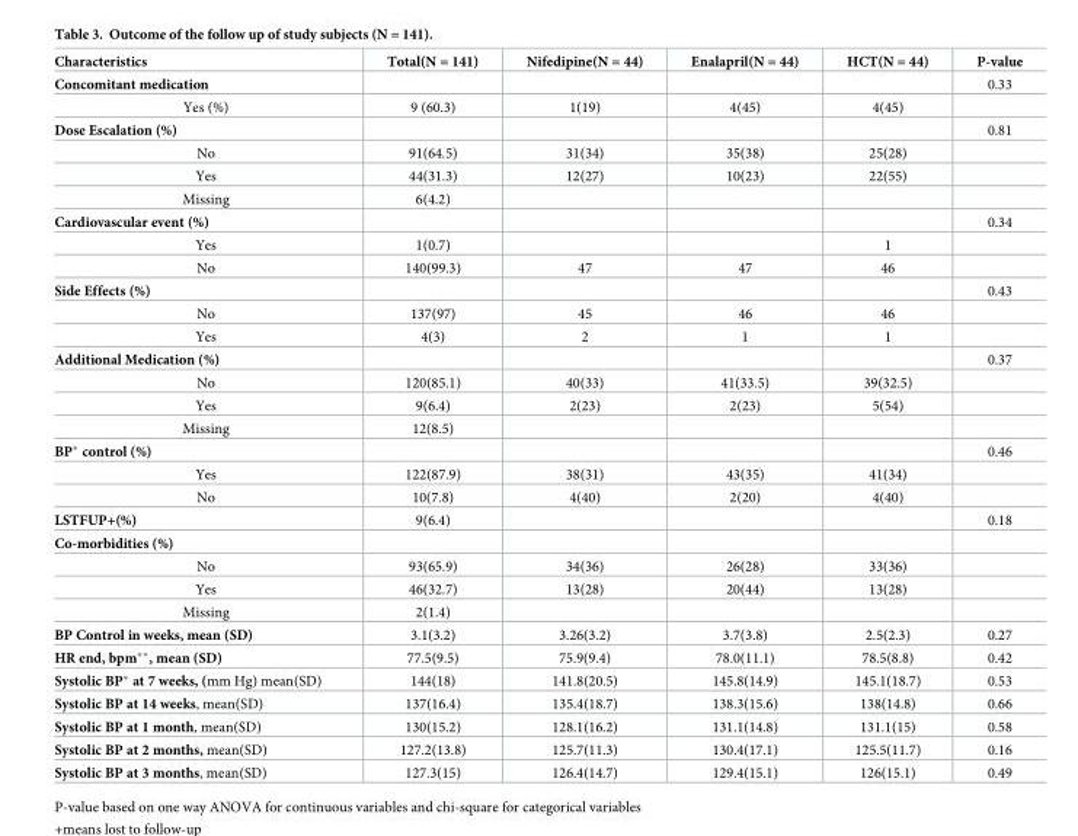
<table><thead><tr><td>Characteristics</td><td>Total(N = 141)</td><td>Nifedipine(N = 44)</td><td>Enalapril(N = 44)</td><td>HCT(N = 44)</td><td>P-value</td></tr></thead><tbody><tr><td>Concomitant medication</td><td></td><td></td><td></td><td></td><td>0.33</td></tr><tr><td>Yes (%)</td><td>9 (60.3)</td><td>1(19)</td><td>4(45)</td><td>4(45)</td><td></td></tr><tr><td>Dose Escalation (%)</td><td></td><td></td><td></td><td></td><td>0.81</td></tr><tr><td>No</td><td>91(64.5)</td><td>31(34)</td><td>35(38)</td><td>25(28)</td><td></td></tr><tr><td>Yes</td><td>44(31.3)</td><td>12(27)</td><td>10(23)</td><td>22(55)</td><td></td></tr><tr><td>Missing</td><td>6(4.2)</td><td></td><td></td><td></td><td></td></tr><tr><td>Cardiovascular event (%)</td><td></td><td></td><td></td><td></td><td>0.34</td></tr><tr><td>Yes</td><td>1(0.7)</td><td></td><td></td><td>1</td><td></td></tr><tr><td>No</td><td>140(99.3)</td><td>47</td><td>47</td><td>46</td><td></td></tr><tr><td>Side Effects (%)</td><td></td><td></td><td></td><td></td><td>0.43</td></tr><tr><td>No</td><td>137(97)</td><td>45</td><td>46</td><td>46</td><td></td></tr><tr><td>Yes</td><td>4(3)</td><td>2</td><td>1</td><td>1</td><td></td></tr><tr><td>Additional Medication (%)</td><td></td><td></td><td></td><td></td><td>0.37</td></tr><tr><td>No</td><td>120(85.1)</td><td>40(33)</td><td>41(33.5)</td><td>39(32.5)</td><td></td></tr><tr><td>Yes</td><td>9(6.4)</td><td>2(23)</td><td>2(23)</td><td>5(54)</td><td></td></tr><tr><td>Missing</td><td>12(8.5)</td><td></td><td></td><td></td><td></td></tr><tr><td>BP* control (%)</td><td></td><td></td><td></td><td></td><td>0.46</td></tr><tr><td>Yes</td><td>122(87.9)</td><td>38(31)</td><td>43(35)</td><td>41(34)</td><td></td></tr><tr><td>No</td><td>10(7.8)</td><td>4(40)</td><td>2(20)</td><td>4(40)</td><td></td></tr><tr><td>LSTFUP+(%)</td><td>9(6.4)</td><td></td><td></td><td></td><td>0.18</td></tr><tr><td colspan="6">Co-morbidities (%)</td></tr><tr><td>No</td><td>93(65.9)</td><td>34(36)</td><td>26(28)</td><td>33(36)</td><td></td></tr><tr><td>Yes</td><td>46(32.7)</td><td>13(28)</td><td>20(44)</td><td>13(28)</td><td></td></tr><tr><td>Missing</td><td>2(1.4)</td><td></td><td></td><td></td><td></td></tr><tr><td>BP Control in weeks, mean (SD)</td><td>3.1(3.2)</td><td>3.26(3.2)</td><td>3.7(3.8)</td><td>2.5(2.3)</td><td>0.27</td></tr><tr><td>HR end, bpm**, mean (SD)</td><td>77.5(9.5)</td><td>75.9(9.4)</td><td>78.0(11.1)</td><td>78.5(8.8)</td><td>0.42</td></tr><tr><td>Systolic BP* at 7 weeks, (mm Hg) mean(SD)</td><td>144(18)</td><td>141.8(20.5)</td><td>145.8(14.9)</td><td>145.1(18.7)</td><td>0.53</td></tr><tr><td>Systolic BP at 14 weeks, mean(SD)</td><td>137(16.4)</td><td>135.4(18.7)</td><td>138.3(15.6)</td><td>138(14.8)</td><td>0.66</td></tr><tr><td>Systolic BP at 1 month, mean(SD)</td><td>130(15.2)</td><td>128.1(16.2)</td><td>131.1(14.8)</td><td>131.1(15)</td><td>0.58</td></tr><tr><td>Systolic BP at 2 months, mean(SD)</td><td>127.2(13.8)</td><td>125.7(11.3)</td><td>130.4(17.1)</td><td>125.5(11.7)</td><td>0.16</td></tr><tr><td>Systolic BP at 3 months, mean(SD)</td><td>127.3(15)</td><td>126.4(14.7)</td><td>129.4(15.1)</td><td>126(15.1)</td><td>0.49</td></tr></tbody></table>